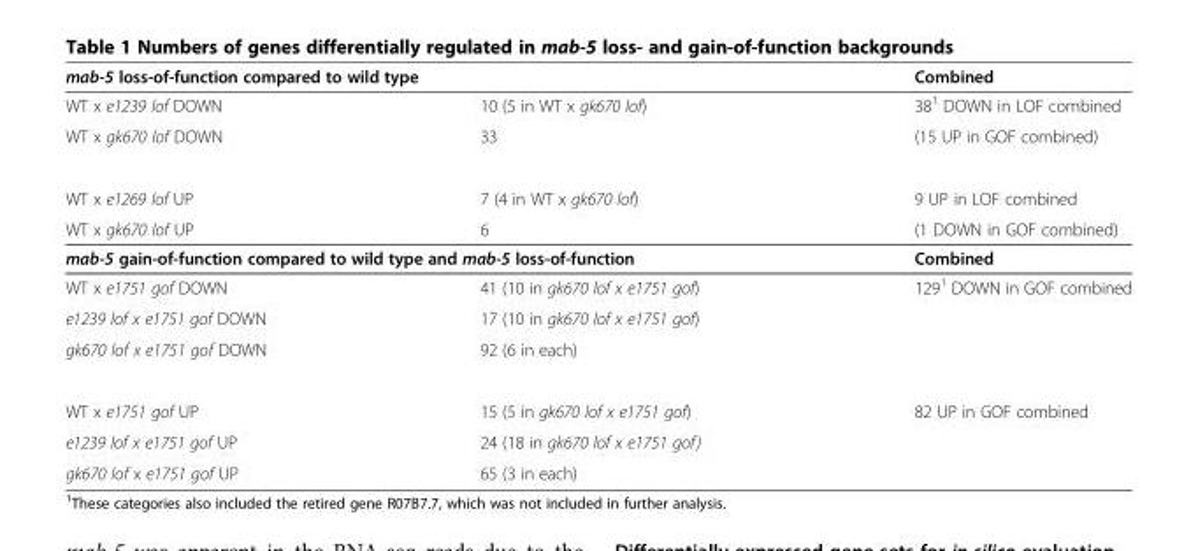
<table><thead><tr><td colspan="2">mab-5 loss-of-function compared to wild type</td><td rowspan="2">Combined 381 DOWN in LOF combined</td></tr><tr><td>WT x e1239 lof DOWN</td><td>10 (5 in WT x gk670 lof)</td></tr></thead><tbody><tr><td>WT x gk670 lof DOWN</td><td>33</td><td>(15 UP in GOF combined)</td></tr><tr><td>WT x e1269 lof UP</td><td>7 (4 in WT x gk670 lof)</td><td>9 UP in LOF combined</td></tr><tr><td>WT x gk670 lof UP</td><td>6</td><td>(1 DOWN in GOF combined)</td></tr><tr><td colspan="2">mab-5 gain-of-function compared to wild type and mab-5 loss-of-function</td><td>Combined</td></tr><tr><td>WT x e1751 gof DOWN</td><td>41 (10 in gk670 lof x e1751 gof)</td><td>129<sup>1</sup> DOWN in GOF combined</td></tr><tr><td>e1239 lof x e1751 gof DOWN</td><td>17 (10 in gk670 lof x e1751 gof)</td><td></td></tr><tr><td>gk670 lof x e1751 gof DOWN</td><td>92 (6 in each)</td><td></td></tr><tr><td>WT x e1751 gof UP</td><td>15 (5 in gk670 lof x e1751 gof)</td><td>82 UP in GOF combined</td></tr><tr><td>e1239 lof x e1751 gof UP</td><td>24 (18 in gk670 lof x e1751 gof)</td><td></td></tr><tr><td>gk670 lof x e1751 gof UP</td><td>65 (3 in each)</td><td></td></tr></tbody></table>